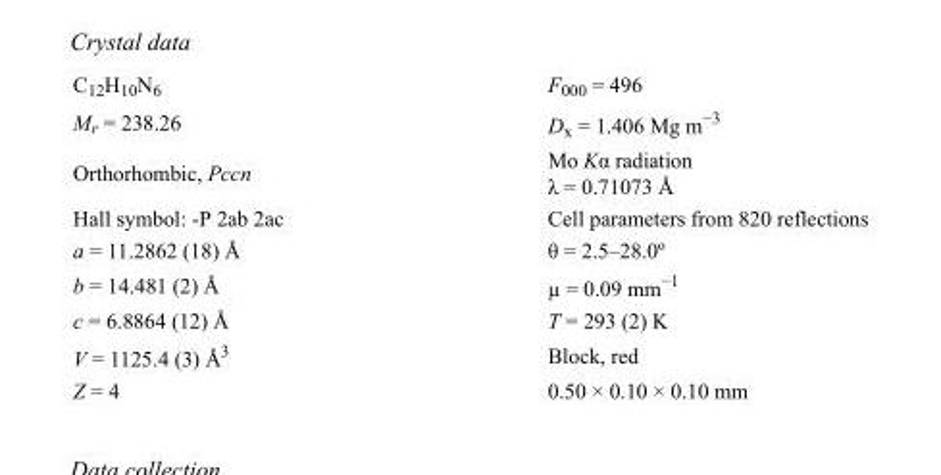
<table><tbody><tr><td>C<sub>12</sub>H<sub>10</sub>N<sub>6</sub></td><td>F<sub>000</sub> = 496</td></tr><tr><td>M<sub>r</sub> = 238.26</td><td>D<sub>x</sub> = 1.406 Mg m<sup>−3</sup></td></tr><tr><td>Orthorhombic, Pccn</td><td>Mo Kα radiation λ = 0.71073 Å</td></tr><tr><td>Hall symbol: -P 2ab 2ac</td><td>Cell parameters from 820 reflections</td></tr><tr><td>a = 11.2862 (18) Å</td><td>θ = 2.5–28.0º</td></tr><tr><td>b = 14.481 (2) Å</td><td>µ = 0.09 mm<sup>−1</sup></td></tr><tr><td>c = 6.8864 (12) Å</td><td>T = 293 (2) K</td></tr><tr><td>V = 1125.4 (3) Å<sup>3</sup></td><td>Block, red</td></tr><tr><td>Z = 4</td><td>0.50 × 0.10 × 0.10 mm</td></tr></tbody></table>